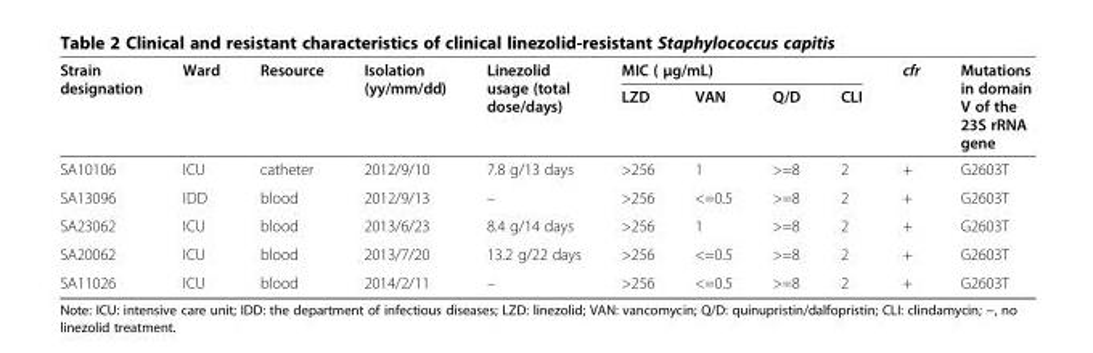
<table><thead><tr><td rowspan="2">Strain designation</td><td rowspan="2">Ward</td><td rowspan="2">Resource</td><td rowspan="2">Isolation (yy/mm/dd)</td><td rowspan="2">Linezolid usage (total dose/days)</td><td colspan="4">MIC ( μg/mL)</td><td rowspan="2">cfr</td><td rowspan="2">Mutations in domain V of the 23S rRNA gene</td></tr><tr><td>LZD</td><td>VAN</td><td>Q/D</td><td>CLI</td></tr></thead><tbody><tr><td>SA10106</td><td>ICU</td><td>catheter</td><td>2012/9/10</td><td>7.8 g/13 days</td><td>&gt;256</td><td>1</td><td>&gt;=8</td><td>2</td><td>+</td><td>G2603T</td></tr><tr><td>SA13096</td><td>IDD</td><td>blood</td><td>2012/9/13</td><td>–</td><td>&gt;256</td><td>&lt;=0.5</td><td>&gt;=8</td><td>2</td><td>+</td><td>G2603T</td></tr><tr><td>SA23062</td><td>ICU</td><td>blood</td><td>2013/6/23</td><td>8.4 g/14 days</td><td>&gt;256</td><td>1</td><td>&gt;=8</td><td>2</td><td>+</td><td>G2603T</td></tr><tr><td>SA20062</td><td>ICU</td><td>blood</td><td>2013/7/20</td><td>13.2 g/22 days</td><td>&gt;256</td><td>&lt;=0.5</td><td>&gt;=8</td><td>2</td><td>+</td><td>G2603T</td></tr><tr><td>SA11026</td><td>ICU</td><td>blood</td><td>2014/2/11</td><td>–</td><td>&gt;256</td><td>&lt;=0.5</td><td>&gt;=8</td><td>2</td><td>+</td><td>G2603T</td></tr></tbody></table>